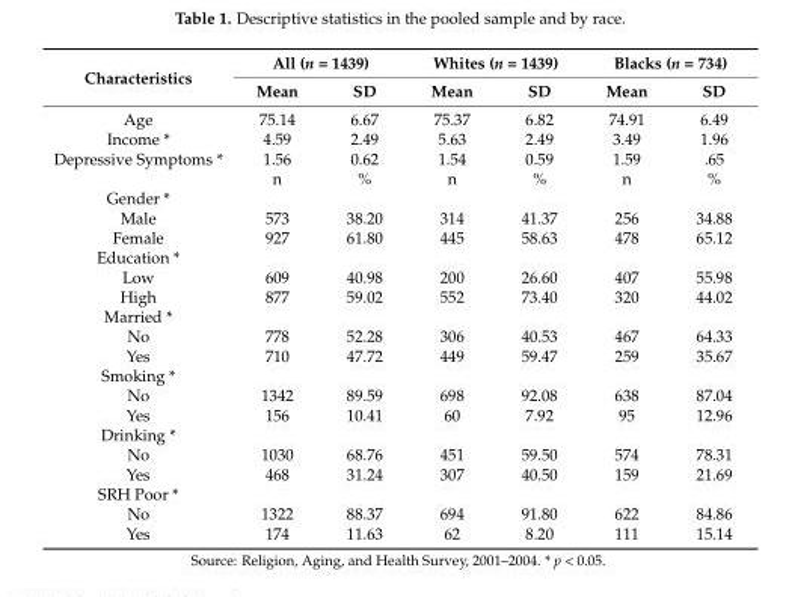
<table><thead><tr><td rowspan="2">Characteristics</td><td colspan="2">All (n = 1439)</td><td colspan="2">Whites (n = 1439)</td><td colspan="2">Blacks (n = 734)</td></tr><tr><td>Mean</td><td>SD</td><td>Mean</td><td>SD</td><td>Mean</td><td>SD</td></tr></thead><tbody><tr><td>Age</td><td>75.14</td><td>6.67</td><td>75.37</td><td>6.82</td><td>74.91</td><td>6.49</td></tr><tr><td>Income *</td><td>4.59</td><td>2.49</td><td>5.63</td><td>2.49</td><td>3.49</td><td>1.96</td></tr><tr><td rowspan="2">Depressive Symptoms *</td><td>1.56</td><td>0.62</td><td>1.54</td><td>0.59</td><td>1.59</td><td>.65</td></tr><tr><td>n</td><td>%</td><td>n</td><td>%</td><td>n</td><td>%</td></tr><tr><td colspan="7">Gender *</td></tr><tr><td>Male</td><td>573</td><td>38.20</td><td>314</td><td>41.37</td><td>256</td><td>34.88</td></tr><tr><td>Female</td><td>927</td><td>61.80</td><td>445</td><td>58.63</td><td>478</td><td>65.12</td></tr><tr><td colspan="7">Education *</td></tr><tr><td>Low</td><td>609</td><td>40.98</td><td>200</td><td>26.60</td><td>407</td><td>55.98</td></tr><tr><td>High</td><td>877</td><td>59.02</td><td>552</td><td>73.40</td><td>320</td><td>44.02</td></tr><tr><td colspan="7">Married *</td></tr><tr><td>No</td><td>778</td><td>52.28</td><td>306</td><td>40.53</td><td>467</td><td>64.33</td></tr><tr><td>Yes</td><td>710</td><td>47.72</td><td>449</td><td>59.47</td><td>259</td><td>35.67</td></tr><tr><td colspan="7">Smoking *</td></tr><tr><td>No</td><td>1342</td><td>89.59</td><td>698</td><td>92.08</td><td>638</td><td>87.04</td></tr><tr><td>Yes</td><td>156</td><td>10.41</td><td>60</td><td>7.92</td><td>95</td><td>12.96</td></tr><tr><td colspan="7">Drinking *</td></tr><tr><td>No</td><td>1030</td><td>68.76</td><td>451</td><td>59.50</td><td>574</td><td>78.31</td></tr><tr><td>Yes</td><td>468</td><td>31.24</td><td>307</td><td>40.50</td><td>159</td><td>21.69</td></tr><tr><td colspan="7">SRH Poor *</td></tr><tr><td>No</td><td>1322</td><td>88.37</td><td>694</td><td>91.80</td><td>622</td><td>84.86</td></tr><tr><td>Yes</td><td>174</td><td>11.63</td><td>62</td><td>8.20</td><td>111</td><td>15.14</td></tr></tbody></table>